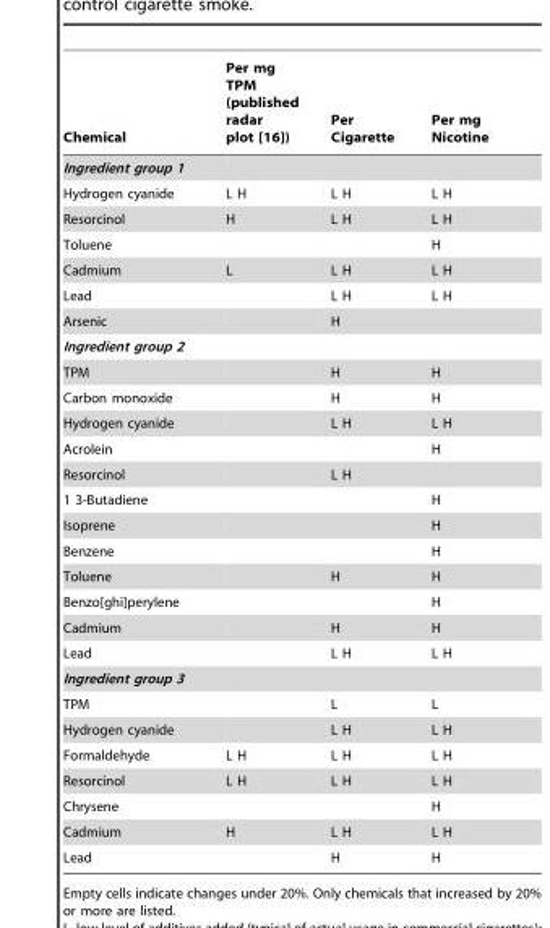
<table><thead><tr><td>Chemical</td><td>Per mg TPM (published radar plot [16])</td><td>Per Cigarette</td><td>Per mg Nicotine</td></tr></thead><tbody><tr><td colspan="4">Ingredient group 1</td></tr><tr><td>Hydrogen cyanide</td><td>L H</td><td>L H</td><td>L H</td></tr><tr><td>Resorcinol</td><td>H</td><td>L H</td><td>L H</td></tr><tr><td>Toluene</td><td></td><td></td><td>H</td></tr><tr><td>Cadmium</td><td>L</td><td>L H</td><td>L H</td></tr><tr><td>Lead</td><td></td><td>L H</td><td>L H</td></tr><tr><td>Arsenic</td><td></td><td>H</td><td></td></tr><tr><td colspan="4">Ingredient group 2</td></tr><tr><td>TPM</td><td></td><td>H</td><td>H</td></tr><tr><td>Carbon monoxide</td><td></td><td>H</td><td>H</td></tr><tr><td>Hydrogen cyanide</td><td></td><td>L H</td><td>L H</td></tr><tr><td>Acrolein</td><td></td><td></td><td>H</td></tr><tr><td>Resorcinol</td><td></td><td>L H</td><td></td></tr><tr><td>1 3-Butadiene</td><td></td><td></td><td>H</td></tr><tr><td>Isoprene</td><td></td><td></td><td>H</td></tr><tr><td>Benzene</td><td></td><td></td><td>H</td></tr><tr><td>Toluene</td><td></td><td>H</td><td>H</td></tr><tr><td>Benzo[ghi]perylene</td><td></td><td></td><td>H</td></tr><tr><td>Cadmium</td><td></td><td>H</td><td>H</td></tr><tr><td>Lead</td><td></td><td>L H</td><td>L H</td></tr><tr><td colspan="4">Ingredient group 3</td></tr><tr><td>TPM</td><td></td><td>L</td><td>L</td></tr><tr><td>Hydrogen cyanide</td><td></td><td>L H</td><td>L H</td></tr><tr><td>Formaldehyde</td><td>L H</td><td>L H</td><td>L H</td></tr><tr><td>Resorcinol</td><td>L H</td><td>L H</td><td>L H</td></tr><tr><td>Chrysene</td><td></td><td></td><td>H</td></tr><tr><td>Cadmium</td><td>H</td><td>L H</td><td>L H</td></tr><tr><td>Lead</td><td></td><td>H</td><td>H</td></tr></tbody></table>